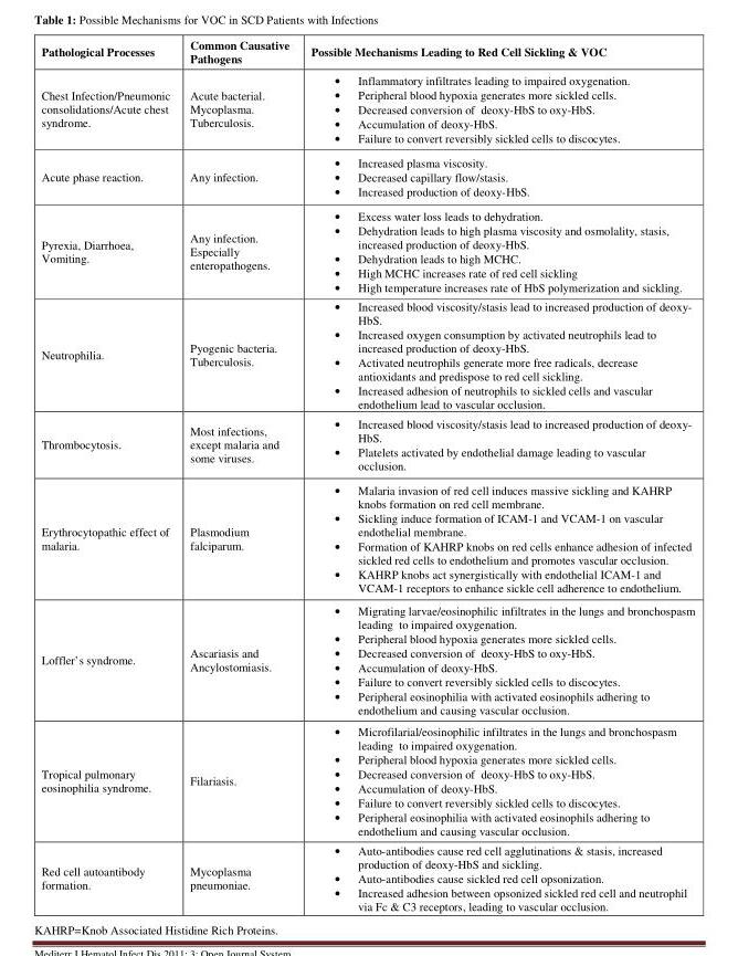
<table><thead><tr><td>Pathological Processes</td><td>Common Causative Pathogens</td><td>Possible Mechanisms Leading to Red Cell Sickling &amp; VOC</td></tr></thead><tbody><tr><td>Chest Infection/Pneumonic consolidations/Acute chest syndrome.</td><td>Acute bacterial. Mycoplasma. Tuberculosis.</td><td>• Inflammatory infiltrates leading to impaired oxygenation. • Peripheral blood hypoxia generates more sickled cells. • Decreased conversion of deoxy-HbS to oxy-HbS. • Accumulation of deoxy-HbS. • Failure to convert reversibly sickled cells to discocytes.</td></tr><tr><td>Acute phase reaction.</td><td>Any infection.</td><td>• Increased plasma viscosity. • Decreased capillary flow/stasis. • Increased production of deoxy-HbS.</td></tr><tr><td>Pyrexia, Diarrhoea, Vomiting.</td><td>Any infection. Especially enteropathogens.</td><td>• Excess water loss leads to dehydration. • Dehydration leads to high plasma viscosity and osmolality, stasis, increased production of deoxy-HbS. • Dehydration leads to high MCHC. • High MCHC increases rate of red cell sickling • High temperature increases rate of HbS polymerization and sickling.</td></tr><tr><td>Neutrophilia.</td><td>Pyogenic bacteria. Tuberculosis.</td><td>• Increased blood viscosity/stasis lead to increased production of deoxy- HbS. • Increased oxygen consumption by activated neutrophils lead to increased production of deoxy-HbS. • Activated neutrophils generate more free radicals, decrease antioxidants and predispose to red cell sickling. • Increased adhesion of neutrophils to sickled cells and vascular endothelium lead to vascular occlusion.</td></tr><tr><td>Thrombocytosis.</td><td>Most infections, except malaria and some viruses.</td><td>• Increased blood viscosity/stasis lead to increased production of deoxy- HbS. • Platelets activated by endothelial damage leading to vascular occlusion.</td></tr><tr><td>Erythrocytopathic effect of malaria.</td><td>Plasmodium falciparum.</td><td>• Malaria invasion of red cell induces massive sickling and KAHRP knobs formation on red cell membrane. • Sickling induce formation of ICAM-1 and VCAM-1 on vascular endothelial membrane. • Formation of KAHRP knobs on red cells enhance adhesion of infected sickled red cells to endothelium and promotes vascular occlusion. • KAHRP knobs act synergistically with endothelial ICAM-1 and VCAM-1 receptors to enhance sickle cell adherence to endothelium.</td></tr><tr><td>Loffler’s syndrome.</td><td>Ascariasis and Ancylostomiasis.</td><td>• Migrating larvae/eosinophilic infiltrates in the lungs and bronchospasm leading to impaired oxygenation. • Peripheral blood hypoxia generates more sickled cells. • Decreased conversion of deoxy-HbS to oxy-HbS. • Accumulation of deoxy-HbS. • Failure to convert reversibly sickled cells to discocytes. • Peripheral eosinophilia with activated eosinophils adhering to endothelium and causing vascular occlusion.</td></tr><tr><td>Tropical pulmonary eosinophilia syndrome.</td><td>Filariasis.</td><td>• Microfilarial/eosinophilic infiltrates in the lungs and bronchospasm leading to impaired oxygenation. • Peripheral blood hypoxia generates more sickled cells. • Decreased conversion of deoxy-HbS to oxy-HbS. • Accumulation of deoxy-HbS. • Failure to convert reversibly sickled cells to discocytes. • Peripheral eosinophilia with activated eosinophils adhering to endothelium and causing vascular occlusion.</td></tr><tr><td>Red cell autoantibody formation.</td><td>Mycoplasma pneumoniae.</td><td>• Auto-antibodies cause red cell agglutinations &amp; stasis, increased production of deoxy-HbS and sickling. • Auto-antibodies cause sickled red cell opsonization. • Increased adhesion between opsonized sickled red cell and neutrophil via Fc &amp; C3 receptors, leading to vascular occlusion.</td></tr></tbody></table>